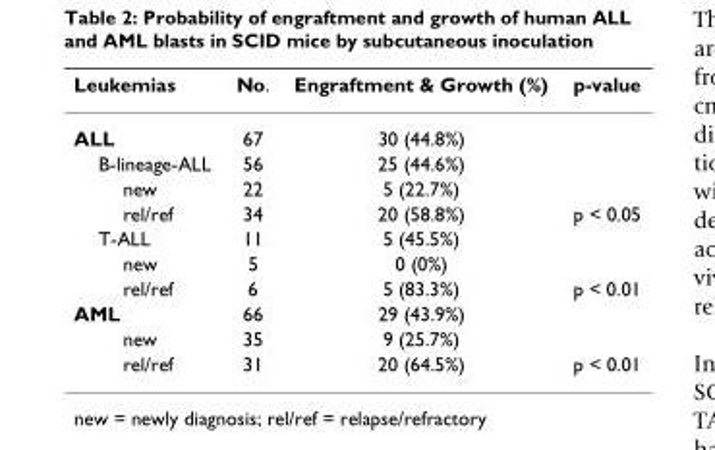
<table><thead><tr><td>Leukemias</td><td>No.</td><td>Engraftment &amp; Growth (%)</td><td>p-value</td></tr></thead><tbody><tr><td>ALL</td><td>67</td><td>30 (44.8%)</td><td></td></tr><tr><td>B-lineage-ALL</td><td>56</td><td>25 (44.6%)</td><td></td></tr><tr><td>new</td><td>22</td><td>5 (22.7%)</td><td></td></tr><tr><td>rel/ref</td><td>34</td><td>20 (58.8%)</td><td>p &lt; 0.05</td></tr><tr><td>T-ALL</td><td>11</td><td>5 (45.5%)</td><td></td></tr><tr><td>new</td><td>5</td><td>0 (0%)</td><td></td></tr><tr><td>rel/ref</td><td>6</td><td>5 (83.3%)</td><td>p &lt; 0.01</td></tr><tr><td>AML</td><td>66</td><td>29 (43.9%)</td><td></td></tr><tr><td>new</td><td>35</td><td>9 (25.7%)</td><td></td></tr><tr><td>rel/ref</td><td>31</td><td>20 (64.5%)</td><td>p &lt; 0.01</td></tr></tbody></table>